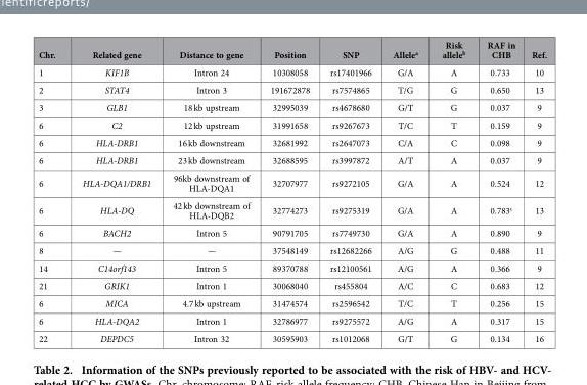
<table><thead><tr><td>Chr.</td><td>Related gene</td><td>Distance to gene</td><td>Position</td><td>SNP</td><td>Allele<sup>a</sup></td><td>Risk allele<sup>b</sup></td><td>RAF in CHB</td><td>Ref.</td></tr></thead><tbody><tr><td>1</td><td>KIF1B</td><td>Intron 24</td><td>10308058</td><td>rs17401966</td><td>G/A</td><td>A</td><td>0.733</td><td>10</td></tr><tr><td>2</td><td>STAT4</td><td>Intron 3</td><td>191672878</td><td>rs7574865</td><td>T/G</td><td>G</td><td>0.650</td><td>13</td></tr><tr><td>3</td><td>GLB1</td><td>18 kb upstream</td><td>32995039</td><td>rs4678680</td><td>G/T</td><td>G</td><td>0.037</td><td>9</td></tr><tr><td>6</td><td>C2</td><td>12 kb upstream</td><td>31991658</td><td>rs9267673</td><td>T/C</td><td>T</td><td>0.159</td><td>9</td></tr><tr><td>6</td><td>HLA-DRB1</td><td>16 kb downstream</td><td>32681992</td><td>rs2647073</td><td>C/A</td><td>C</td><td>0.098</td><td>9</td></tr><tr><td>6</td><td>HLA-DRB1</td><td>23 kb downstream</td><td>32688595</td><td>rs3997872</td><td>A/T</td><td>A</td><td>0.037</td><td>9</td></tr><tr><td>6</td><td>HLA-DQA1/DRB1</td><td>96kb downstream of HLA-DQA1</td><td>32707977</td><td>rs9272105</td><td>G/A</td><td>A</td><td>0.524</td><td>12</td></tr><tr><td>6</td><td>HLA-DQ</td><td>42 kb downstream of HLA-DQB2</td><td>32774273</td><td>rs9275319</td><td>G/A</td><td>A</td><td>0.783<sup>c</sup></td><td>13</td></tr><tr><td>6</td><td>BACH2</td><td>Intron 5</td><td>90791705</td><td>rs7749730</td><td>G/A</td><td>A</td><td>0.890</td><td>9</td></tr><tr><td>8</td><td>—</td><td>—</td><td>37548149</td><td>rs12682266</td><td>A/G</td><td>G</td><td>0.488</td><td>11</td></tr><tr><td>14</td><td>C14orf143</td><td>Intron 5</td><td>89370788</td><td>rs12100561</td><td>A/G</td><td>A</td><td>0.366</td><td>9</td></tr><tr><td>21</td><td>GRIK1</td><td>Intron 1</td><td>30068040</td><td>rs455804</td><td>A/C</td><td>C</td><td>0.683</td><td>12</td></tr><tr><td>6</td><td>MICA</td><td>4.7 kb upstream</td><td>31474574</td><td>rs2596542</td><td>T/C</td><td>T</td><td>0.256</td><td>15</td></tr><tr><td>6</td><td>HLA-DQA2</td><td>Intron 1</td><td>32786977</td><td>rs9275572</td><td>A/G</td><td>A</td><td>0.317</td><td>15</td></tr><tr><td>22</td><td>DEPDC5</td><td>Intron 32</td><td>30595903</td><td>rs1012068</td><td>G/T</td><td>G</td><td>0.134</td><td>16</td></tr></tbody></table>